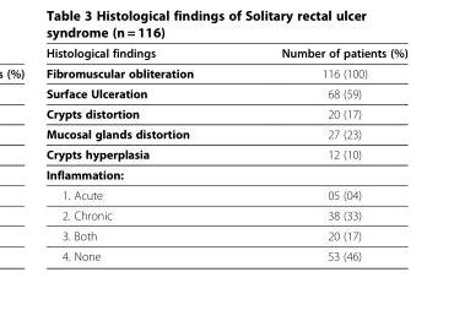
<table><thead><tr><td>Histological findings</td><td>Number of patients (%)</td></tr></thead><tbody><tr><td>Fibromuscular obliteration</td><td>116 (100)</td></tr><tr><td>Surface Ulceration</td><td>68 (59)</td></tr><tr><td>Crypts distortion</td><td>20 (17)</td></tr><tr><td>Mucosal glands distortion</td><td>27 (23)</td></tr><tr><td>Crypts hyperplasia</td><td>12 (10)</td></tr><tr><td colspan="2">Inflammation:</td></tr><tr><td>1. Acute</td><td>05 (04)</td></tr><tr><td>2. Chronic</td><td>38 (33)</td></tr><tr><td>3. Both</td><td>20 (17)</td></tr><tr><td>4. None</td><td>53 (46)</td></tr></tbody></table>